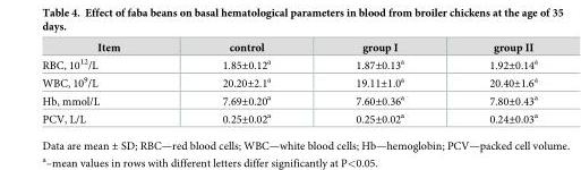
<table><thead><tr><td>Item</td><td>control</td><td>group I</td><td>group II</td></tr></thead><tbody><tr><td>RBC, 10<sup>12</sup>/L</td><td>1.85±0.12<sup>a</sup></td><td>1.87±0.13<sup>a</sup></td><td>1.92±0.14<sup>a</sup></td></tr><tr><td>WBC, 10<sup>9</sup>/L</td><td>20.20±2.1<sup>a</sup></td><td>19.11±1.0<sup>a</sup></td><td>20.40±1.6<sup>a</sup></td></tr><tr><td>Hb, mmol/L</td><td>7.69±0.20<sup>a</sup></td><td>7.60±0.36<sup>a</sup></td><td>7.80±0.43<sup>a</sup></td></tr><tr><td>PCV, L/L</td><td>0.25±0.02<sup>a</sup></td><td>0.25±0.02<sup>a</sup></td><td>0.24±0.03<sup>a</sup></td></tr></tbody></table>